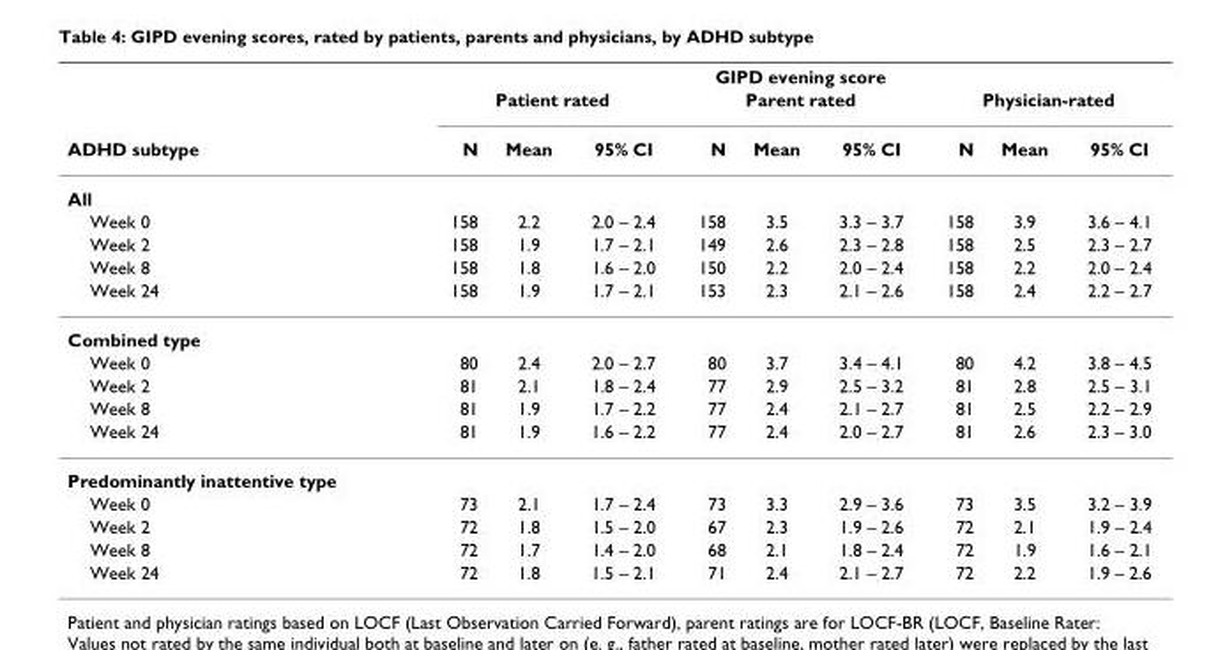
<table><thead><tr><td rowspan="3">ADHD subtype</td><td colspan="9">GIPD evening score</td></tr><tr><td colspan="3">Patient rated</td><td colspan="3">Parent rated</td><td colspan="3">Physician-rated</td></tr><tr><td>N</td><td>Mean</td><td>95% CI</td><td>N</td><td>Mean</td><td>95% CI</td><td>N</td><td>Mean</td><td>95% CI</td></tr></thead><tbody><tr><td colspan="10">All</td></tr><tr><td>Week 0</td><td>158</td><td>2.2</td><td>2.0 – 2.4</td><td>158</td><td>3.5</td><td>3.3 – 3.7</td><td>158</td><td>3.9</td><td>3.6 – 4.1</td></tr><tr><td>Week 2</td><td>158</td><td>1.9</td><td>1.7 – 2.1</td><td>149</td><td>2.6</td><td>2.3 – 2.8</td><td>158</td><td>2.5</td><td>2.3 – 2.7</td></tr><tr><td>Week 8</td><td>158</td><td>1.8</td><td>1.6 – 2.0</td><td>150</td><td>2.2</td><td>2.0 – 2.4</td><td>158</td><td>2.2</td><td>2.0 – 2.4</td></tr><tr><td>Week 24</td><td>158</td><td>1.9</td><td>1.7 – 2.1</td><td>153</td><td>2.3</td><td>2.1 – 2.6</td><td>158</td><td>2.4</td><td>2.2 – 2.7</td></tr><tr><td colspan="10">Combined type</td></tr><tr><td>Week 0</td><td>80</td><td>2.4</td><td>2.0 – 2.7</td><td>80</td><td>3.7</td><td>3.4 – 4.1</td><td>80</td><td>4.2</td><td>3.8 – 4.5</td></tr><tr><td>Week 2</td><td>81</td><td>2.1</td><td>1.8 – 2.4</td><td>77</td><td>2.9</td><td>2.5 – 3.2</td><td>81</td><td>2.8</td><td>2.5 – 3.1</td></tr><tr><td>Week 8</td><td>81</td><td>1.9</td><td>1.7 – 2.2</td><td>77</td><td>2.4</td><td>2.1 – 2.7</td><td>81</td><td>2.5</td><td>2.2 – 2.9</td></tr><tr><td>Week 24</td><td>81</td><td>1.9</td><td>1.6 – 2.2</td><td>77</td><td>2.4</td><td>2.0 – 2.7</td><td>81</td><td>2.6</td><td>2.3 – 3.0</td></tr><tr><td colspan="10">Predominantly inattentive type</td></tr><tr><td>Week 0</td><td>73</td><td>2.1</td><td>1.7 – 2.4</td><td>73</td><td>3.3</td><td>2.9 – 3.6</td><td>73</td><td>3.5</td><td>3.2 – 3.9</td></tr><tr><td>Week 2</td><td>72</td><td>1.8</td><td>1.5 – 2.0</td><td>67</td><td>2.3</td><td>1.9 – 2.6</td><td>72</td><td>2.1</td><td>1.9 – 2.4</td></tr><tr><td>Week 8</td><td>72</td><td>1.7</td><td>1.4 – 2.0</td><td>68</td><td>2.1</td><td>1.8 – 2.4</td><td>72</td><td>1.9</td><td>1.6 – 2.1</td></tr><tr><td>Week 24</td><td>72</td><td>1.8</td><td>1.5 – 2.1</td><td>71</td><td>2.4</td><td>2.1 – 2.7</td><td>72</td><td>2.2</td><td>1.9 – 2.6</td></tr></tbody></table>